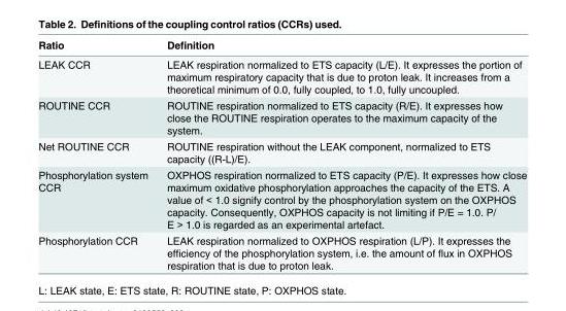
<table><thead><tr><td>Ratio</td><td>Definition</td></tr></thead><tbody><tr><td>LEAK CCR</td><td>LEAK respiration normalized to ETS capacity (L/E). It expresses the portion of maximum respiratory capacity that is due to proton leak. It increases from a theoretical minimum of 0.0, fully coupled, to 1.0, fully uncoupled.</td></tr><tr><td>ROUTINE CCR</td><td>ROUTINE respiration normalized to ETS capacity (R/E). It expresses how close the ROUTINE respiration operates to the maximum capacity of the system.</td></tr><tr><td>Net ROUTINE CCR</td><td>ROUTINE respiration without the LEAK component, normalized to ETS capacity ((R-L)/E).</td></tr><tr><td>Phosphorylation system CCR</td><td>OXPHOS respiration normalized to ETS capacity (P/E). It expresses how close maximum oxidative phosphorylation approaches the capacity of the ETS. A value of &lt; 1.0 signify control by the phosphorylation system on the OXPHOS capacity. Consequently, OXPHOS capacity is not limiting if P/E = 1.0. P/ E &gt; 1.0 is regarded as an experimental artefact.</td></tr><tr><td>Phosphorylation CCR</td><td>LEAK respiration normalized to OXPHOS respiration (L/P). It expresses the efficiency of the phosphorylation system, i.e. the amount of flux in OXPHOS respiration that is due to proton leak.</td></tr></tbody></table>